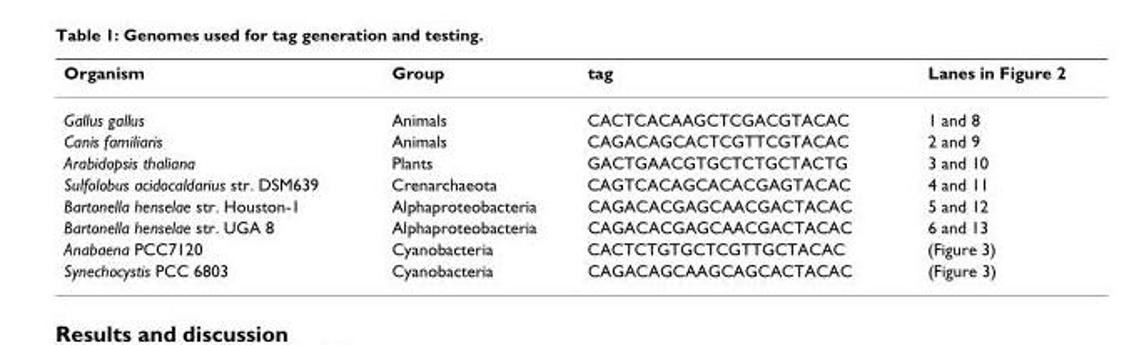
<table><thead><tr><td>Organism</td><td>Group</td><td>tag</td><td>Lanes in Figure 2</td></tr></thead><tbody><tr><td>Gallus gallus</td><td>Animals</td><td>CACTCACAAGCTCGACGTACAC</td><td>1 and 8</td></tr><tr><td>Canis familiaris</td><td>Animals</td><td>CAGACAGCACTCGTTCGTACAC</td><td>2 and 9</td></tr><tr><td>Arabidopsis thaliana</td><td>Plants</td><td>GACTGAACGTGCTCTGCTACTG</td><td>3 and 10</td></tr><tr><td>Sulfolobus acidocaldarius str. DSM639</td><td>Crenarchaeota</td><td>CAGTCACAGCACACGAGTACAC</td><td>4 and 11</td></tr><tr><td>Bartonella henselae str. Houston-1</td><td>Alphaproteobacteria</td><td>CAGACACGAGCAACGACTACAC</td><td>5 and 12</td></tr><tr><td>Bartonella henselae str. UGA 8</td><td>Alphaproteobacteria</td><td>CAGACACGAGCAACGACTACAC</td><td>6 and 13</td></tr><tr><td>Anabaena PCC7120</td><td>Cyanobacteria</td><td>CACTCTGTGCTCGTTGCTACAC</td><td>(Figure 3)</td></tr><tr><td>Synechocystis PCC 6803</td><td>Cyanobacteria</td><td>CAGACAGCAAGCAGCACTACAC</td><td>(Figure 3)</td></tr></tbody></table>